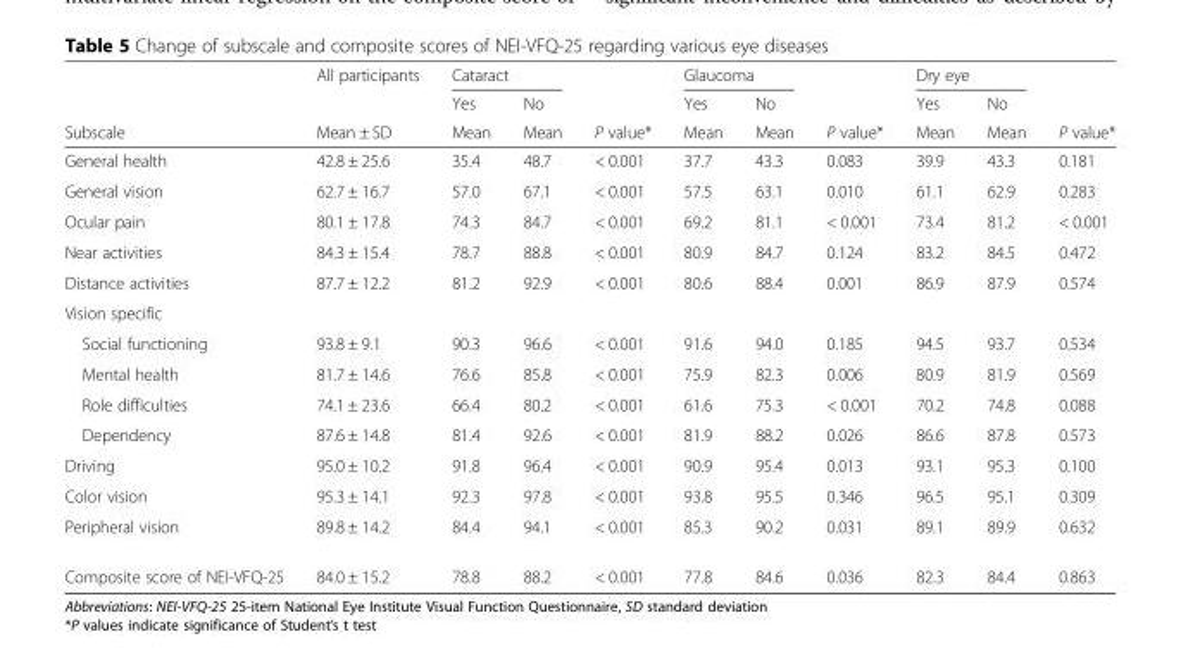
<table><thead><tr><td rowspan="3">Subscale</td><td rowspan="3">All participants Mean ± SD</td><td colspan="2">Cataract</td><td rowspan="3">P value*</td><td colspan="2">Glaucoma</td><td rowspan="3">P value*</td><td colspan="2">Dry eye</td><td rowspan="3">P value*</td></tr><tr><td rowspan="2">Yes Mean</td><td rowspan="2">No Mean</td><td rowspan="2">Yes Mean</td><td rowspan="2">No Mean</td><td rowspan="2">Yes Mean</td><td rowspan="2">No Mean</td></tr><tr></tr></thead><tbody><tr><td>General health</td><td>42.8 ± 25.6</td><td>35.4</td><td>48.7</td><td>&lt; 0.001</td><td>37.7</td><td>43.3</td><td>0.083</td><td>39.9</td><td>43.3</td><td>0.181</td></tr><tr><td>General vision</td><td>62.7 ± 16.7</td><td>57.0</td><td>67.1</td><td>&lt; 0.001</td><td>57.5</td><td>63.1</td><td>0.010</td><td>61.1</td><td>62.9</td><td>0.283</td></tr><tr><td>Ocular pain</td><td>80.1 ± 17.8</td><td>74.3</td><td>84.7</td><td>&lt; 0.001</td><td>69.2</td><td>81.1</td><td>&lt; 0.001</td><td>73.4</td><td>81.2</td><td>&lt; 0.001</td></tr><tr><td>Near activities</td><td>84.3 ± 15.4</td><td>78.7</td><td>88.8</td><td>&lt; 0.001</td><td>80.9</td><td>84.7</td><td>0.124</td><td>83.2</td><td>84.5</td><td>0.472</td></tr><tr><td>Distance activities</td><td>87.7 ± 12.2</td><td>81.2</td><td>92.9</td><td>&lt; 0.001</td><td>80.6</td><td>88.4</td><td>0.001</td><td>86.9</td><td>87.9</td><td>0.574</td></tr><tr><td colspan="11">Vision specific</td></tr><tr><td>Social functioning</td><td>93.8 ± 9.1</td><td>90.3</td><td>96.6</td><td>&lt; 0.001</td><td>91.6</td><td>94.0</td><td>0.185</td><td>94.5</td><td>93.7</td><td>0.534</td></tr><tr><td>Mental health</td><td>81.7 ± 14.6</td><td>76.6</td><td>85.8</td><td>&lt; 0.001</td><td>75.9</td><td>82.3</td><td>0.006</td><td>80.9</td><td>81.9</td><td>0.569</td></tr><tr><td>Role difficulties</td><td>74.1 ± 23.6</td><td>66.4</td><td>80.2</td><td>&lt; 0.001</td><td>61.6</td><td>75.3</td><td>&lt; 0.001</td><td>70.2</td><td>74.8</td><td>0.088</td></tr><tr><td>Dependency</td><td>87.6 ± 14.8</td><td>81.4</td><td>92.6</td><td>&lt; 0.001</td><td>81.9</td><td>88.2</td><td>0.026</td><td>86.6</td><td>87.8</td><td>0.573</td></tr><tr><td>Driving</td><td>95.0 ± 10.2</td><td>91.8</td><td>96.4</td><td>&lt; 0.001</td><td>90.9</td><td>95.4</td><td>0.013</td><td>93.1</td><td>95.3</td><td>0.100</td></tr><tr><td>Color vision</td><td>95.3 ± 14.1</td><td>92.3</td><td>97.8</td><td>&lt; 0.001</td><td>93.8</td><td>95.5</td><td>0.346</td><td>96.5</td><td>95.1</td><td>0.309</td></tr><tr><td>Peripheral vision</td><td>89.8 ± 14.2</td><td>84.4</td><td>94.1</td><td>&lt; 0.001</td><td>85.3</td><td>90.2</td><td>0.031</td><td>89.1</td><td>89.9</td><td>0.632</td></tr><tr><td>Composite score of NEI-VFQ-25</td><td>84.0 ± 15.2</td><td>78.8</td><td>88.2</td><td>&lt; 0.001</td><td>77.8</td><td>84.6</td><td>0.036</td><td>82.3</td><td>84.4</td><td>0.863</td></tr></tbody></table>